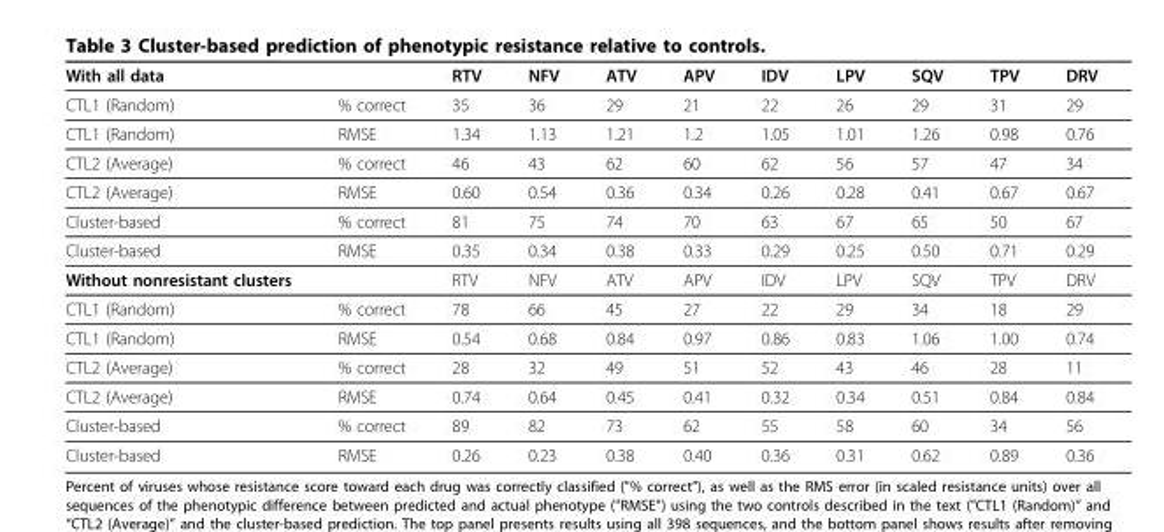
<table><thead><tr><td>With all data</td><td></td><td>RTV</td><td>NFV</td><td>ATV</td><td>APV</td><td>IDV</td><td>LPV</td><td>SQV</td><td>TPV</td><td>DRV</td></tr></thead><tbody><tr><td>CTL1 (Random)</td><td>% correct</td><td>35</td><td>36</td><td>29</td><td>21</td><td>22</td><td>26</td><td>29</td><td>31</td><td>29</td></tr><tr><td>CTL1 (Random)</td><td>RMSE</td><td>1.34</td><td>1.13</td><td>1.21</td><td>1.2</td><td>1.05</td><td>1.01</td><td>1.26</td><td>0.98</td><td>0.76</td></tr><tr><td>CTL2 (Average)</td><td>% correct</td><td>46</td><td>43</td><td>62</td><td>60</td><td>62</td><td>56</td><td>57</td><td>47</td><td>34</td></tr><tr><td>CTL2 (Average)</td><td>RMSE</td><td>0.60</td><td>0.54</td><td>0.36</td><td>0.34</td><td>0.26</td><td>0.28</td><td>0.41</td><td>0.67</td><td>0.67</td></tr><tr><td>Cluster-based</td><td>% correct</td><td>81</td><td>75</td><td>74</td><td>70</td><td>63</td><td>67</td><td>65</td><td>50</td><td>67</td></tr><tr><td>Cluster-based</td><td>RMSE</td><td>0.35</td><td>0.34</td><td>0.38</td><td>0.33</td><td>0.29</td><td>0.25</td><td>0.50</td><td>0.71</td><td>0.29</td></tr><tr><td>Without nonresistant clusters</td><td></td><td>RTV</td><td>NFV</td><td>ATV</td><td>APV</td><td>IDV</td><td>LPV</td><td>SQV</td><td>TPV</td><td>DRV</td></tr><tr><td>CTL1 (Random)</td><td>% correct</td><td>78</td><td>66</td><td>45</td><td>27</td><td>22</td><td>29</td><td>34</td><td>18</td><td>29</td></tr><tr><td>CTL1 (Random)</td><td>RMSE</td><td>0.54</td><td>0.68</td><td>0.84</td><td>0.97</td><td>0.86</td><td>0.83</td><td>1.06</td><td>1.00</td><td>0.74</td></tr><tr><td>CTL2 (Average)</td><td>% correct</td><td>28</td><td>32</td><td>49</td><td>51</td><td>52</td><td>43</td><td>46</td><td>28</td><td>11</td></tr><tr><td>CTL2 (Average)</td><td>RMSE</td><td>0.74</td><td>0.64</td><td>0.45</td><td>0.41</td><td>0.32</td><td>0.34</td><td>0.51</td><td>0.84</td><td>0.84</td></tr><tr><td>Cluster-based</td><td>% correct</td><td>89</td><td>82</td><td>73</td><td>62</td><td>55</td><td>58</td><td>60</td><td>34</td><td>56</td></tr><tr><td>Cluster-based</td><td>RMSE</td><td>0.26</td><td>0.23</td><td>0.38</td><td>0.40</td><td>0.36</td><td>0.31</td><td>0.62</td><td>0.89</td><td>0.36</td></tr></tbody></table>